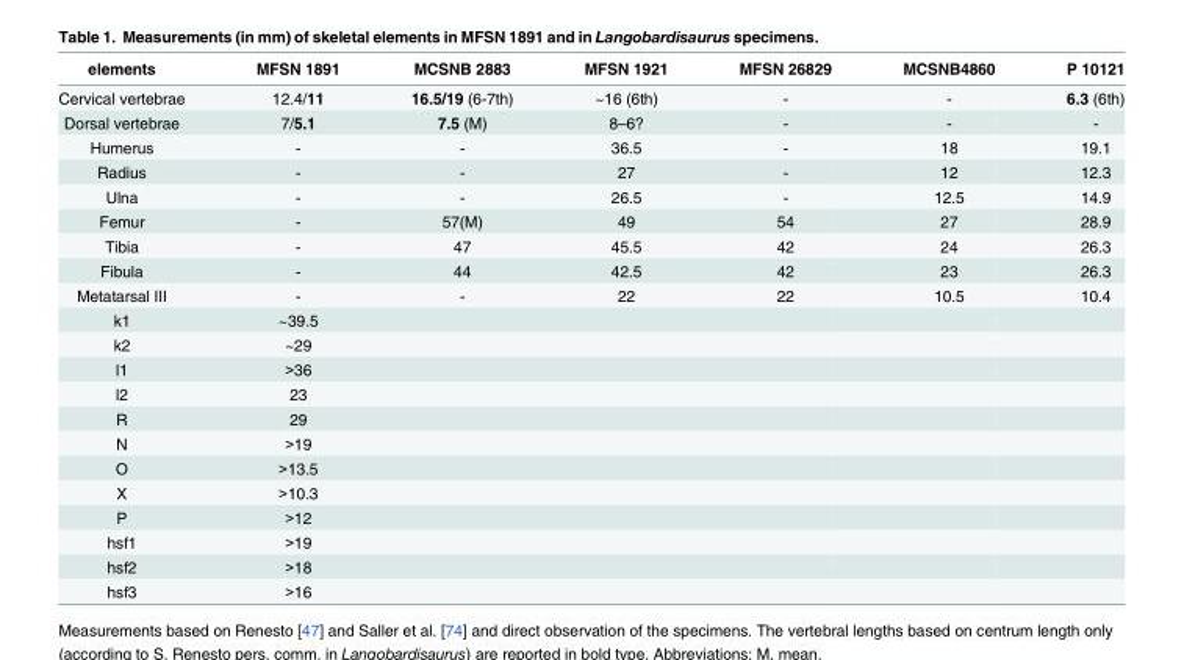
<table><thead><tr><td>elements</td><td>MFSN 1891</td><td>MCSNB 2883</td><td>MFSN 1921</td><td>MFSN 26829</td><td>MCSNB4860</td><td>P 10121</td></tr></thead><tbody><tr><td>Cervical vertebrae</td><td>12.4/11</td><td>16.5/19 (6-7th)</td><td>~16 (6th)</td><td>-</td><td>-</td><td>6.3 (6th)</td></tr><tr><td>Dorsal vertebrae</td><td>7/5.1</td><td>7.5 (M)</td><td>8–6?</td><td>-</td><td>-</td><td>-</td></tr><tr><td>Humerus</td><td>-</td><td>-</td><td>36.5</td><td>-</td><td>18</td><td>19.1</td></tr><tr><td>Radius</td><td>-</td><td>-</td><td>27</td><td>-</td><td>12</td><td>12.3</td></tr><tr><td>Ulna</td><td>-</td><td>-</td><td>26.5</td><td>-</td><td>12.5</td><td>14.9</td></tr><tr><td>Femur</td><td>-</td><td>57(M)</td><td>49</td><td>54</td><td>27</td><td>28.9</td></tr><tr><td>Tibia</td><td>-</td><td>47</td><td>45.5</td><td>42</td><td>24</td><td>26.3</td></tr><tr><td>Fibula</td><td>-</td><td>44</td><td>42.5</td><td>42</td><td>23</td><td>26.3</td></tr><tr><td>Metatarsal III</td><td>-</td><td>-</td><td>22</td><td>22</td><td>10.5</td><td>10.4</td></tr><tr><td>k1</td><td>~39.5</td><td></td><td></td><td></td><td></td><td></td></tr><tr><td>k2</td><td>~29</td><td></td><td></td><td></td><td></td><td></td></tr><tr><td>l1</td><td>&gt;36</td><td></td><td></td><td></td><td></td><td></td></tr><tr><td>l2</td><td>23</td><td></td><td></td><td></td><td></td><td></td></tr><tr><td>R</td><td>29</td><td></td><td></td><td></td><td></td><td></td></tr><tr><td>N</td><td>&gt;19</td><td></td><td></td><td></td><td></td><td></td></tr><tr><td>O</td><td>&gt;13.5</td><td></td><td></td><td></td><td></td><td></td></tr><tr><td>X</td><td>&gt;10.3</td><td></td><td></td><td></td><td></td><td></td></tr><tr><td>P</td><td>&gt;12</td><td></td><td></td><td></td><td></td><td></td></tr><tr><td>hsf1</td><td>&gt;19</td><td></td><td></td><td></td><td></td><td></td></tr><tr><td>hsf2</td><td>&gt;18</td><td></td><td></td><td></td><td></td><td></td></tr><tr><td>hsf3</td><td>&gt;16</td><td></td><td></td><td></td><td></td><td></td></tr></tbody></table>